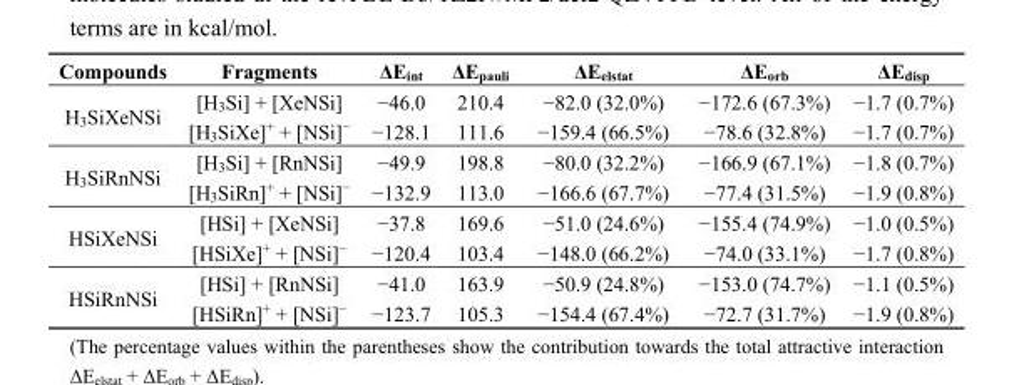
<table><thead><tr><td>Compounds</td><td>Fragments</td><td>ΔE<sub>int</sub></td><td>ΔE<sub>pauli</sub></td><td>ΔE<sub>elstat</sub></td><td>ΔE<sub>orb</sub></td><td>ΔE<sub>disp</sub></td></tr></thead><tbody><tr><td rowspan="2">H<sub>3</sub>SiXeNSi</td><td>[H<sub>3</sub>Si] + [XeNSi]</td><td>−46.0</td><td>210.4</td><td>−82.0 (32.0%)</td><td>−172.6 (67.3%)</td><td>−1.7 (0.7%)</td></tr><tr><td>[H<sub>3</sub>SiXe]<sup>+</sup> + [NSi]<sup>−</sup></td><td>−128.1</td><td>111.6</td><td>−159.4 (66.5%)</td><td>−78.6 (32.8%)</td><td>−1.7 (0.7%)</td></tr><tr><td rowspan="2">H<sub>3</sub>SiRnNSi</td><td>[H<sub>3</sub>Si] + [RnNSi]</td><td>−49.9</td><td>198.8</td><td>−80.0 (32.2%)</td><td>−166.9 (67.1%)</td><td>−1.8 (0.7%)</td></tr><tr><td>[H<sub>3</sub>SiRn]<sup>+</sup> + [NSi]<sup>−</sup></td><td>−132.9</td><td>113.0</td><td>−166.6 (67.7%)</td><td>−77.4 (31.5%)</td><td>−1.9 (0.8%)</td></tr><tr><td rowspan="2">HSiXeNSi</td><td>[HSi] + [XeNSi]</td><td>−37.8</td><td>169.6</td><td>−51.0 (24.6%)</td><td>−155.4 (74.9%)</td><td>−1.0 (0.5%)</td></tr><tr><td>[HSiXe]<sup>+</sup> + [NSi]<sup>−</sup></td><td>−120.4</td><td>103.4</td><td>−148.0 (66.2%)</td><td>−74.0 (33.1%)</td><td>−1.7 (0.8%)</td></tr><tr><td rowspan="2">HSiRnNSi</td><td>[HSi] + [RnNSi]</td><td>−41.0</td><td>163.9</td><td>−50.9 (24.8%)</td><td>−153.0 (74.7%)</td><td>−1.1 (0.5%)</td></tr><tr><td>[HSiRn]<sup>+</sup> + [NSi]<sup>−</sup></td><td>−123.7</td><td>105.3</td><td>−154.4 (67.4%)</td><td>−72.7 (31.7%)</td><td>−1.9 (0.8%)</td></tr></tbody></table>